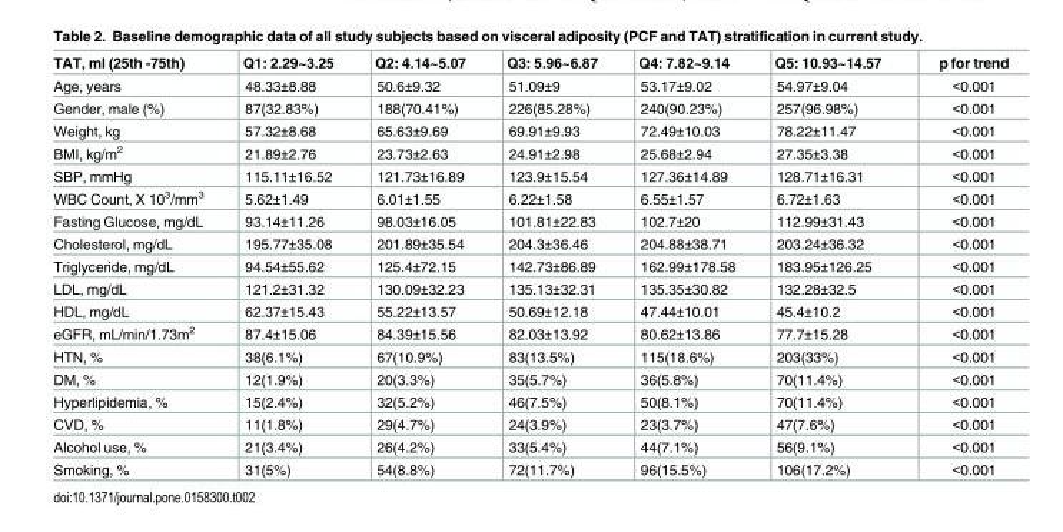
<table><thead><tr><td>TAT, ml (25th -75th)</td><td>Q1: 2.29~3.25</td><td>Q2: 4.14~5.07</td><td>Q3: 5.96~6.87</td><td>Q4: 7.82~9.14</td><td>Q5: 10.93~14.57</td><td>p for trend</td></tr></thead><tbody><tr><td>Age, years</td><td>48.33±8.88</td><td>50.6±9.32</td><td>51.09±9</td><td>53.17±9.02</td><td>54.97±9.04</td><td>&lt;0.001</td></tr><tr><td>Gender, male (%)</td><td>87(32.83%)</td><td>188(70.41%)</td><td>226(85.28%)</td><td>240(90.23%)</td><td>257(96.98%)</td><td>&lt;0.001</td></tr><tr><td>Weight, kg</td><td>57.32±8.68</td><td>65.63±9.69</td><td>69.91±9.93</td><td>72.49±10.03</td><td>78.22±11.47</td><td>&lt;0.001</td></tr><tr><td>BMI, kg/m<sup>2</sup></td><td>21.89±2.76</td><td>23.73±2.63</td><td>24.91±2.98</td><td>25.68±2.94</td><td>27.35±3.38</td><td>&lt;0.001</td></tr><tr><td>SBP, mmHg</td><td>115.11±16.52</td><td>121.73±16.89</td><td>123.9±15.54</td><td>127.36±14.89</td><td>128.71±16.31</td><td>&lt;0.001</td></tr><tr><td>WBC Count, X 10<sup>3</sup>/mm<sup>3</sup></td><td>5.62±1.49</td><td>6.01±1.55</td><td>6.22±1.58</td><td>6.55±1.57</td><td>6.72±1.63</td><td>&lt;0.001</td></tr><tr><td>Fasting Glucose, mg/dL</td><td>93.14±11.26</td><td>98.03±16.05</td><td>101.81±22.83</td><td>102.7±20</td><td>112.99±31.43</td><td>&lt;0.001</td></tr><tr><td>Cholesterol, mg/dL</td><td>195.77±35.08</td><td>201.89±35.54</td><td>204.3±36.46</td><td>204.88±38.71</td><td>203.24±36.32</td><td>&lt;0.001</td></tr><tr><td>Triglyceride, mg/dL</td><td>94.54±55.62</td><td>125.4±72.15</td><td>142.73±86.89</td><td>162.99±178.58</td><td>183.95±126.25</td><td>&lt;0.001</td></tr><tr><td>LDL, mg/dL</td><td>121.2±31.32</td><td>130.09±32.23</td><td>135.13±32.31</td><td>135.35±30.82</td><td>132.28±32.5</td><td>&lt;0.001</td></tr><tr><td>HDL, mg/dL</td><td>62.37±15.43</td><td>55.22±13.57</td><td>50.69±12.18</td><td>47.44±10.01</td><td>45.4±10.2</td><td>&lt;0.001</td></tr><tr><td>eGFR, mL/min/1.73m<sup>2</sup></td><td>87.4±15.06</td><td>84.39±15.56</td><td>82.03±13.92</td><td>80.62±13.86</td><td>77.7±15.28</td><td>&lt;0.001</td></tr><tr><td>HTN, %</td><td>38(6.1%)</td><td>67(10.9%)</td><td>83(13.5%)</td><td>115(18.6%)</td><td>203(33%)</td><td>&lt;0.001</td></tr><tr><td>DM, %</td><td>12(1.9%)</td><td>20(3.3%)</td><td>35(5.7%)</td><td>36(5.8%)</td><td>70(11.4%)</td><td>&lt;0.001</td></tr><tr><td>Hyperlipidemia, %</td><td>15(2.4%)</td><td>32(5.2%)</td><td>46(7.5%)</td><td>50(8.1%)</td><td>70(11.4%)</td><td>&lt;0.001</td></tr><tr><td>CVD, %</td><td>11(1.8%)</td><td>29(4.7%)</td><td>24(3.9%)</td><td>23(3.7%)</td><td>47(7.6%)</td><td>&lt;0.001</td></tr><tr><td>Alcohol use, %</td><td>21(3.4%)</td><td>26(4.2%)</td><td>33(5.4%)</td><td>44(7.1%)</td><td>56(9.1%)</td><td>&lt;0.001</td></tr><tr><td>Smoking, %</td><td>31(5%)</td><td>54(8.8%)</td><td>72(11.7%)</td><td>96(15.5%)</td><td>106(17.2%)</td><td>&lt;0.001</td></tr></tbody></table>